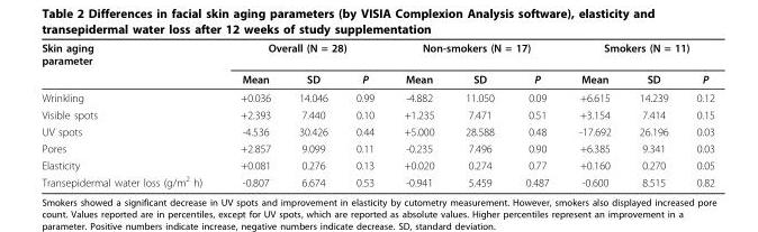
<table><thead><tr><td rowspan="2">Skin aging parameter</td><td colspan="3">Overall (N = 28)</td><td colspan="3">Non-smokers (N = 17)</td><td colspan="3">Smokers (N = 11)</td></tr><tr><td>Mean</td><td>SD</td><td>P</td><td>Mean</td><td>SD</td><td>P</td><td>Mean</td><td>SD</td><td>P</td></tr></thead><tbody><tr><td>Wrinkling</td><td>+0.036</td><td>14.046</td><td>0.99</td><td>-4.882</td><td>11.050</td><td>0.09</td><td>+6.615</td><td>14.239</td><td>0.12</td></tr><tr><td>Visible spots</td><td>+2.393</td><td>7.440</td><td>0.10</td><td>+1.235</td><td>7.471</td><td>0.51</td><td>+3.154</td><td>7.414</td><td>0.15</td></tr><tr><td>UV spots</td><td>-4.536</td><td>30.426</td><td>0.44</td><td>+5.000</td><td>28.588</td><td>0.48</td><td>-17.692</td><td>26.196</td><td>0.03</td></tr><tr><td>Pores</td><td>+2.857</td><td>9.099</td><td>0.11</td><td>-0.235</td><td>7.496</td><td>0.90</td><td>+6.385</td><td>9.341</td><td>0.03</td></tr><tr><td>Elasticity</td><td>+0.081</td><td>0.276</td><td>0.13</td><td>+0.020</td><td>0.274</td><td>0.77</td><td>+0.160</td><td>0.270</td><td>0.05</td></tr><tr><td>Transepidermal water loss (g/m<sup>2</sup> h)</td><td>-0.807</td><td>6.674</td><td>0.53</td><td>-0.941</td><td>5.459</td><td>0.487</td><td>-0.600</td><td>8.515</td><td>0.82</td></tr></tbody></table>